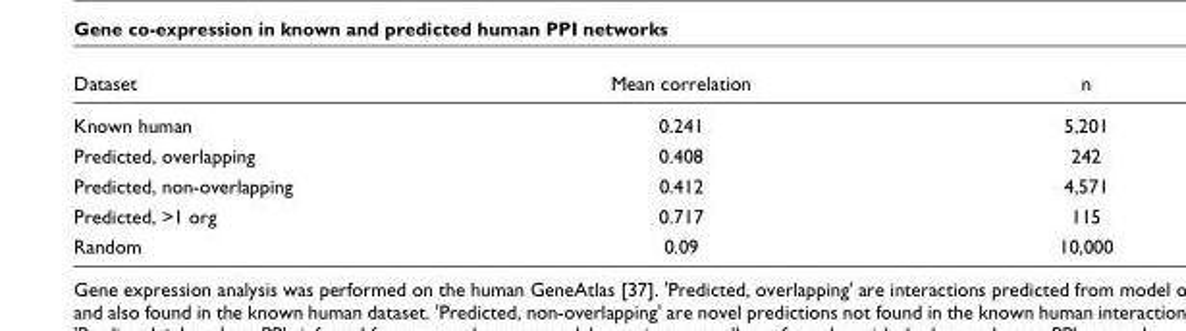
<table><thead><tr><td>Dataset</td><td>Mean correlation</td><td>n</td></tr></thead><tbody><tr><td>Known human</td><td>0.241</td><td>5,201</td></tr><tr><td>Predicted, overlapping</td><td>0.408</td><td>242</td></tr><tr><td>Predicted, non-overlapping</td><td>0.412</td><td>4,571</td></tr><tr><td>Predicted, &gt;1 org</td><td>0.717</td><td>115</td></tr><tr><td>Random</td><td>0.09</td><td>10,000</td></tr></tbody></table>